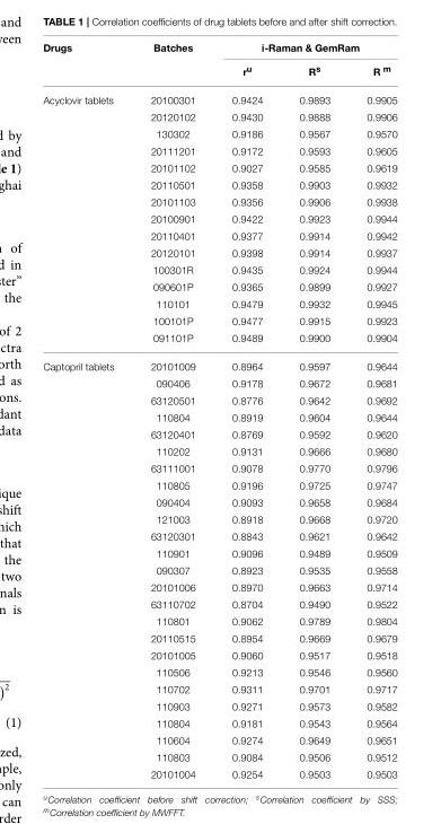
<table><thead><tr><td rowspan="2">Drugs</td><td rowspan="2">Batches</td><td colspan="3">i-Raman &amp; GemRam</td></tr><tr><td>r<sup>u</sup></td><td>R<sup>s</sup></td><td>R <sup>m</sup></td></tr></thead><tbody><tr><td rowspan="15">Acyclovir tablets</td><td>20100301</td><td>0.9424</td><td>0.9893</td><td>0.9905</td></tr><tr><td>20120102</td><td>0.9430</td><td>0.9888</td><td>0.9906</td></tr><tr><td>130302</td><td>0.9186</td><td>0.9567</td><td>0.9570</td></tr><tr><td>20111201</td><td>0.9172</td><td>0.9593</td><td>0.9605</td></tr><tr><td>20101102</td><td>0.9027</td><td>0.9585</td><td>0.9619</td></tr><tr><td>20110501</td><td>0.9358</td><td>0.9903</td><td>0.9932</td></tr><tr><td>20101103</td><td>0.9356</td><td>0.9906</td><td>0.9938</td></tr><tr><td>20100901</td><td>0.9422</td><td>0.9923</td><td>0.9944</td></tr><tr><td>20110401</td><td>0.9377</td><td>0.9914</td><td>0.9942</td></tr><tr><td>20120101</td><td>0.9398</td><td>0.9914</td><td>0.9937</td></tr><tr><td>100301R</td><td>0.9435</td><td>0.9924</td><td>0.9944</td></tr><tr><td>090601P</td><td>0.9365</td><td>0.9899</td><td>0.9927</td></tr><tr><td>110101</td><td>0.9479</td><td>0.9932</td><td>0.9945</td></tr><tr><td>100101P</td><td>0.9477</td><td>0.9915</td><td>0.9923</td></tr><tr><td>091101P</td><td>0.9489</td><td>0.9900</td><td>0.9904</td></tr><tr><td rowspan="25">Captopril tablets</td><td>20101009</td><td>0.8964</td><td>0.9597</td><td>0.9644</td></tr><tr><td>090406</td><td>0.9178</td><td>0.9672</td><td>0.9681</td></tr><tr><td>63120501</td><td>0.8776</td><td>0.9642</td><td>0.9692</td></tr><tr><td>110804</td><td>0.8919</td><td>0.9604</td><td>0.9644</td></tr><tr><td>63120401</td><td>0.8769</td><td>0.9592</td><td>0.9620</td></tr><tr><td>110202</td><td>0.9131</td><td>0.9666</td><td>0.9680</td></tr><tr><td>63111001</td><td>0.9078</td><td>0.9770</td><td>0.9796</td></tr><tr><td>110805</td><td>0.9196</td><td>0.9725</td><td>0.9747</td></tr><tr><td>090404</td><td>0.9093</td><td>0.9658</td><td>0.9684</td></tr><tr><td>121003</td><td>0.8918</td><td>0.9668</td><td>0.9720</td></tr><tr><td>63120301</td><td>0.8843</td><td>0.9621</td><td>0.9642</td></tr><tr><td>110901</td><td>0.9096</td><td>0.9489</td><td>0.9509</td></tr><tr><td>090307</td><td>0.8923</td><td>0.9535</td><td>0.9558</td></tr><tr><td>20101006</td><td>0.8970</td><td>0.9663</td><td>0.9714</td></tr><tr><td>63110702</td><td>0.8704</td><td>0.9490</td><td>0.9522</td></tr><tr><td>110801</td><td>0.9062</td><td>0.9789</td><td>0.9804</td></tr><tr><td>20110515</td><td>0.8954</td><td>0.9669</td><td>0.9679</td></tr><tr><td>20101005</td><td>0.9060</td><td>0.9517</td><td>0.9518</td></tr><tr><td>110506</td><td>0.9213</td><td>0.9546</td><td>0.9560</td></tr><tr><td>110702</td><td>0.9311</td><td>0.9701</td><td>0.9717</td></tr><tr><td>110903</td><td>0.9271</td><td>0.9573</td><td>0.9582</td></tr><tr><td>110804</td><td>0.9181</td><td>0.9543</td><td>0.9564</td></tr><tr><td>110604</td><td>0.9274</td><td>0.9649</td><td>0.9651</td></tr><tr><td>110803</td><td>0.9084</td><td>0.9506</td><td>0.9512</td></tr><tr><td>20101004</td><td>0.9254</td><td>0.9503</td><td>0.9503</td></tr></tbody></table>